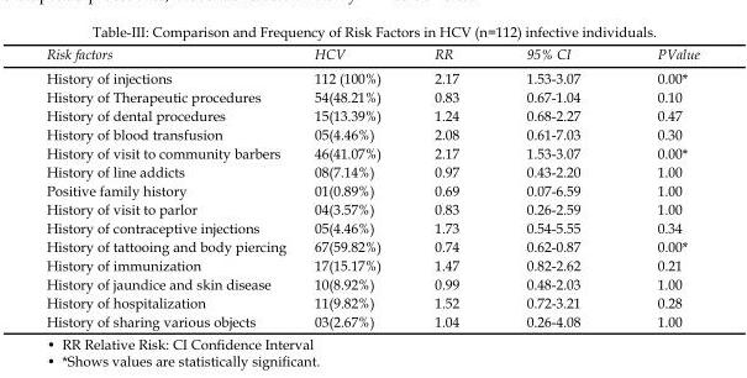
<table><thead><tr><td>Risk factors</td><td>HCV</td><td>RR</td><td>95% CI</td><td>PValue</td></tr></thead><tbody><tr><td>History of injections</td><td>112 (100%)</td><td>2.17</td><td>1.53-3.07</td><td>0.00*</td></tr><tr><td>History of Therapeutic procedures</td><td>54(48.21%)</td><td>0.83</td><td>0.67-1.04</td><td>0.10</td></tr><tr><td>History of dental procedures</td><td>15(13.39%)</td><td>1.24</td><td>0.68-2.27</td><td>0.47</td></tr><tr><td>History of blood transfusion</td><td>05(4.46%)</td><td>2.08</td><td>0.61-7.03</td><td>0.30</td></tr><tr><td>History of visit to community barbers</td><td>46(41.07%)</td><td>2.17</td><td>1.53-3.07</td><td>0.00*</td></tr><tr><td>History of line addicts</td><td>08(7.14%)</td><td>0.97</td><td>0.43-2.20</td><td>1.00</td></tr><tr><td>Positive family history</td><td>01(0.89%)</td><td>0.69</td><td>0.07-6.59</td><td>1.00</td></tr><tr><td>History of visit to parlor</td><td>04(3.57%)</td><td>0.83</td><td>0.26-2.59</td><td>1.00</td></tr><tr><td>History of contraceptive injections</td><td>05(4.46%)</td><td>1.73</td><td>0.54-5.55</td><td>0.34</td></tr><tr><td>History of tattooing and body piercing</td><td>67(59.82%)</td><td>0.74</td><td>0.62-0.87</td><td>0.00*</td></tr><tr><td>History of immunization</td><td>17(15.17%)</td><td>1.47</td><td>0.82-2.62</td><td>0.21</td></tr><tr><td>History of jaundice and skin disease</td><td>10(8.92%)</td><td>0.99</td><td>0.48-2.03</td><td>1.00</td></tr><tr><td>History of hospitalization</td><td>11(9.82%)</td><td>1.52</td><td>0.72-3.21</td><td>0.28</td></tr><tr><td>History of sharing various objects</td><td>03(2.67%)</td><td>1.04</td><td>0.26-4.08</td><td>1.00</td></tr></tbody></table>